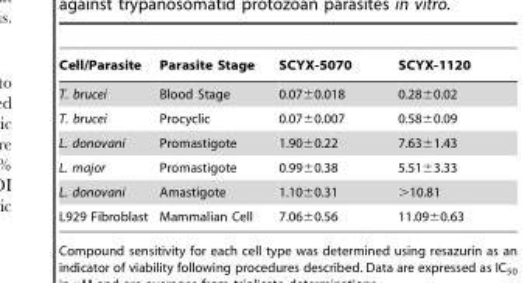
<table><thead><tr><td>Cell/Parasite</td><td>Parasite Stage</td><td>SCYX-5070</td><td>SCYX-1120</td></tr></thead><tbody><tr><td>T. brucei</td><td>Blood Stage</td><td>0.07±0.018</td><td>0.28±0.02</td></tr><tr><td>T. brucei</td><td>Procyclic</td><td>0.07±0.007</td><td>0.58±0.09</td></tr><tr><td>L. donovani</td><td>Promastigote</td><td>1.90±0.22</td><td>7.63±1.43</td></tr><tr><td>L. major</td><td>Promastigote</td><td>0.99±0.38</td><td>5.51±3.33</td></tr><tr><td>L. donovani</td><td>Amastigote</td><td>1.10±0.31</td><td>&gt;10.81</td></tr><tr><td>L929 Fibroblast</td><td>Mammalian Cell</td><td>7.06±0.56</td><td>11.09±0.63</td></tr></tbody></table>